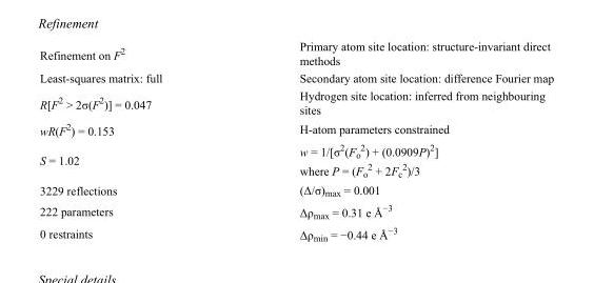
<table><tbody><tr><td>Refinement on F<sup>2</sup></td><td>Primary atom site location: structure-invariant direct methods</td></tr><tr><td>Least-squares matrix: full</td><td>Secondary atom site location: difference Fourier map</td></tr><tr><td>R[F<sup>2</sup> &gt; 2σ(F<sup>2</sup>)] = 0.047</td><td>Hydrogen site location: inferred from neighbouring sites</td></tr><tr><td>wR(F<sup>2</sup>) = 0.153</td><td>H-atom parameters constrained</td></tr><tr><td>S = 1.02</td><td>w = 1/[σ<sup>2</sup>(F<sub>o</sub> <sup>2</sup>) + (0.0909P)<sup>2</sup>] where P = (F<sub>o</sub> <sup>2</sup> + 2F<sub>c</sub> <sup>2</sup>)/3</td></tr><tr><td>3229 reflections</td><td>(Δ/σ)<sub>max</sub> = 0.001</td></tr><tr><td>222 parameters</td><td>Δρ<sub>max</sub> = 0.31 e Å<sup>−3</sup></td></tr><tr><td>0 restraints</td><td>Δρ<sub>min</sub> = −0.44 e Å<sup>−3</sup></td></tr></tbody></table>